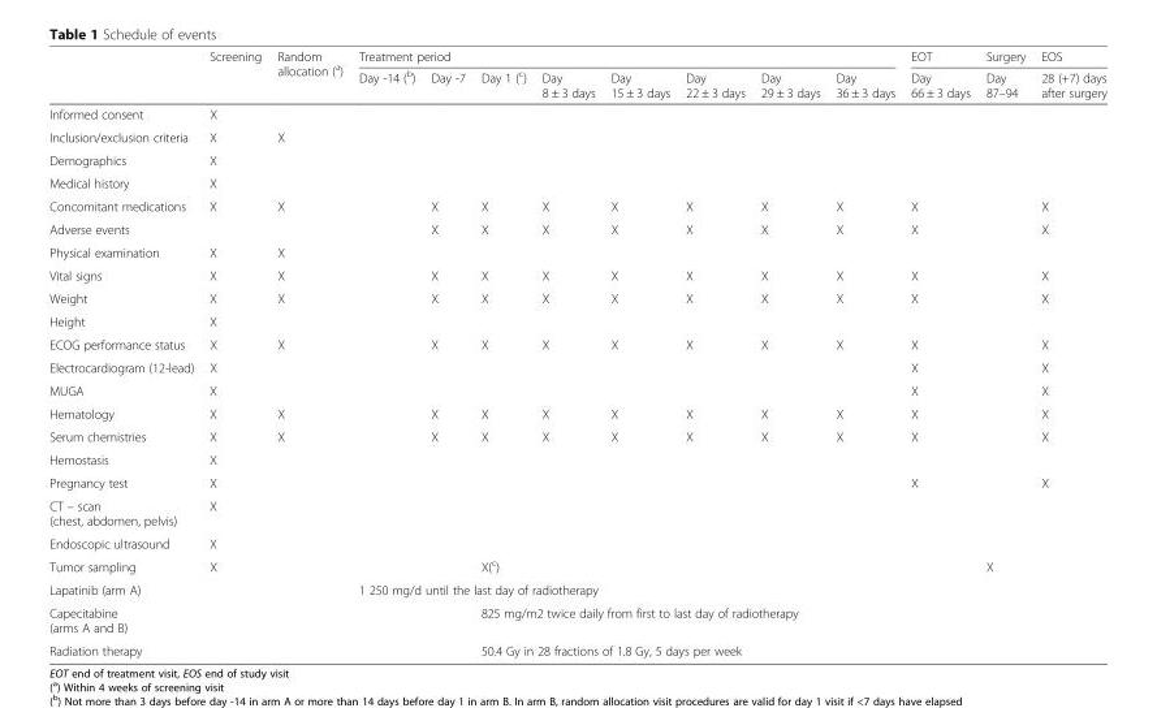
<table><thead><tr><td rowspan="2"></td><td rowspan="2">Screening</td><td rowspan="2">Random allocation (<sup>a</sup>)</td><td colspan="8">Treatment period</td><td rowspan="2">EOT Day 66 ± 3 days</td><td rowspan="2">Surgery Day 87–94</td><td rowspan="2">EOS 28 (+7) days after surgery</td></tr><tr><td>Day -14 (<sup>b</sup>)</td><td>Day -7</td><td>Day 1 (<sup>c</sup>)</td><td>Day 8 ± 3 days</td><td>Day 15 ± 3 days</td><td>Day 22 ± 3 days</td><td>Day 29 ± 3 days</td><td>Day 36 ± 3 days</td></tr></thead><tbody><tr><td>Informed consent</td><td>X</td><td></td><td></td><td></td><td></td><td></td><td></td><td></td><td></td><td></td><td></td><td></td><td></td></tr><tr><td>Inclusion/exclusion criteria</td><td>X</td><td>X</td><td></td><td></td><td></td><td></td><td></td><td></td><td></td><td></td><td></td><td></td><td></td></tr><tr><td>Demographics</td><td>X</td><td></td><td></td><td></td><td></td><td></td><td></td><td></td><td></td><td></td><td></td><td></td><td></td></tr><tr><td>Medical history</td><td>X</td><td></td><td></td><td></td><td></td><td></td><td></td><td></td><td></td><td></td><td></td><td></td><td></td></tr><tr><td>Concomitant medications</td><td>X</td><td>X</td><td></td><td>X</td><td>X</td><td>X</td><td>X</td><td>X</td><td>X</td><td>X</td><td>X</td><td></td><td>X</td></tr><tr><td>Adverse events</td><td></td><td></td><td></td><td>X</td><td>X</td><td>X</td><td>X</td><td>X</td><td>X</td><td>X</td><td>X</td><td></td><td>X</td></tr><tr><td>Physical examination</td><td>X</td><td>X</td><td></td><td></td><td></td><td></td><td></td><td></td><td></td><td></td><td></td><td></td><td></td></tr><tr><td>Vital signs</td><td>X</td><td>X</td><td></td><td>X</td><td>X</td><td>X</td><td>X</td><td>X</td><td>X</td><td>X</td><td>X</td><td></td><td>X</td></tr><tr><td>Weight</td><td>X</td><td>X</td><td></td><td>X</td><td>X</td><td>X</td><td>X</td><td>X</td><td>X</td><td>X</td><td>X</td><td></td><td>X</td></tr><tr><td>Height</td><td>X</td><td></td><td></td><td></td><td></td><td></td><td></td><td></td><td></td><td></td><td></td><td></td><td></td></tr><tr><td>ECOG performance status</td><td>X</td><td>X</td><td></td><td>X</td><td>X</td><td>X</td><td>X</td><td>X</td><td>X</td><td>X</td><td>X</td><td></td><td>X</td></tr><tr><td>Electrocardiogram (12-lead)</td><td>X</td><td></td><td></td><td></td><td></td><td></td><td></td><td></td><td></td><td></td><td>X</td><td></td><td>X</td></tr><tr><td>MUGA</td><td>X</td><td></td><td></td><td></td><td></td><td></td><td></td><td></td><td></td><td></td><td>X</td><td></td><td>X</td></tr><tr><td>Hematology</td><td>X</td><td>X</td><td></td><td>X</td><td>X</td><td>X</td><td>X</td><td>X</td><td>X</td><td>X</td><td>X</td><td></td><td>X</td></tr><tr><td>Serum chemistries</td><td>X</td><td>X</td><td></td><td>X</td><td>X</td><td>X</td><td>X</td><td>X</td><td>X</td><td>X</td><td>X</td><td></td><td>X</td></tr><tr><td>Hemostasis</td><td>X</td><td></td><td></td><td></td><td></td><td></td><td></td><td></td><td></td><td></td><td></td><td></td><td></td></tr><tr><td>Pregnancy test</td><td>X</td><td></td><td></td><td></td><td></td><td></td><td></td><td></td><td></td><td></td><td>X</td><td></td><td>X</td></tr><tr><td>CT – scan (chest, abdomen, pelvis)</td><td>X</td><td></td><td></td><td></td><td></td><td></td><td></td><td></td><td></td><td></td><td></td><td></td><td></td></tr><tr><td>Endoscopic ultrasound</td><td>X</td><td></td><td></td><td></td><td></td><td></td><td></td><td></td><td></td><td></td><td></td><td></td><td></td></tr><tr><td>Tumor sampling</td><td>X</td><td></td><td></td><td></td><td>X(<sup>c</sup>)</td><td></td><td></td><td></td><td></td><td></td><td></td><td>X</td><td></td></tr><tr><td>Lapatinib (arm A)</td><td></td><td></td><td colspan="8">1 250 mg/d until the last day of radiotherapy</td><td></td><td></td><td></td></tr><tr><td>Capecitabine (arms A and B)</td><td></td><td></td><td></td><td></td><td colspan="6">825 mg/m2 twice daily from first to last day of radiotherapy</td><td></td><td></td><td></td></tr><tr><td>Radiation therapy</td><td></td><td colspan="3"></td><td colspan="6">50.4 Gy in 28 fractions of 1.8 Gy, 5 days per week</td><td></td><td></td><td></td></tr></tbody></table>